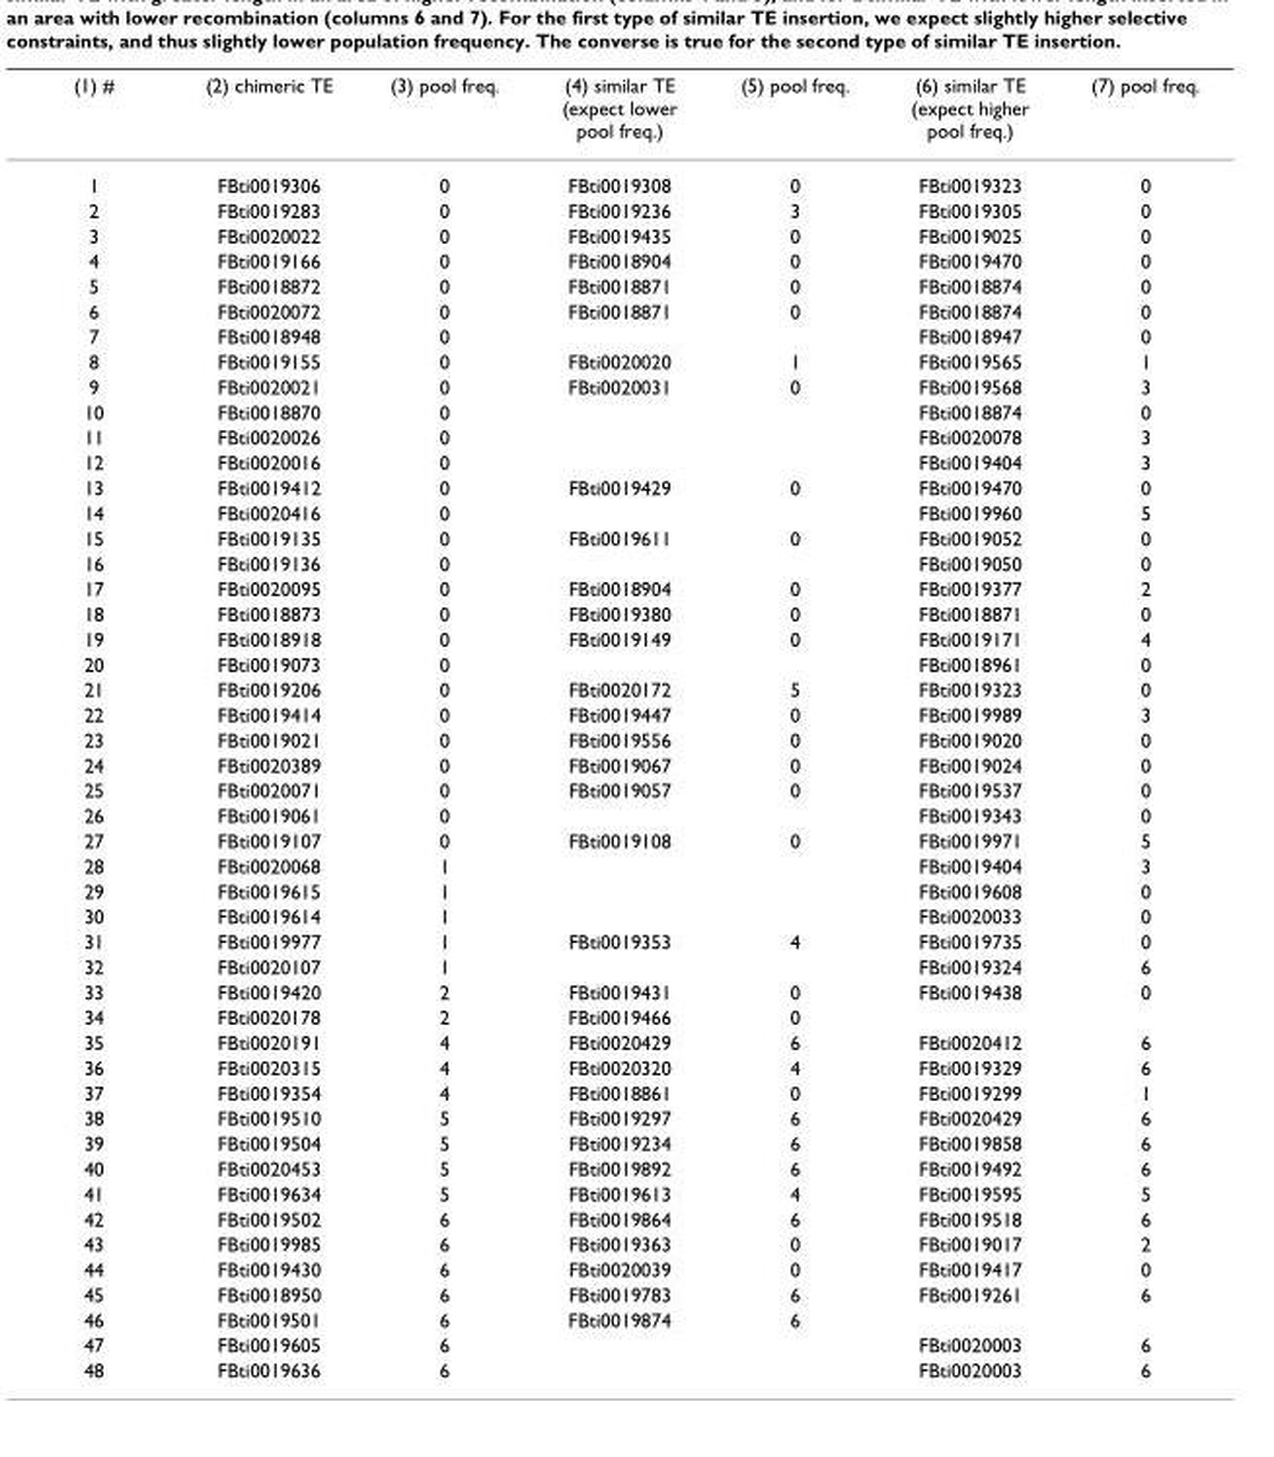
<table><thead><tr><td>(1) #</td><td>(2) chimeric TE</td><td>(3) pool freq.</td><td>(4) similar TE (expect lower pool freq.)</td><td>(5) pool freq.</td><td>(6) similar TE (expect higher pool freq.)</td><td>(7) pool freq.</td></tr></thead><tbody><tr><td>1</td><td>FBti0019306</td><td>0</td><td>FBti0019308</td><td>0</td><td>FBti0019323</td><td>0</td></tr><tr><td>2</td><td>FBti0019283</td><td>0</td><td>FBti0019236</td><td>3</td><td>FBti0019305</td><td>0</td></tr><tr><td>3</td><td>FBti0020022</td><td>0</td><td>FBti0019435</td><td>0</td><td>FBti0019025</td><td>0</td></tr><tr><td>4</td><td>FBti0019166</td><td>0</td><td>FBti0018904</td><td>0</td><td>FBti0019470</td><td>0</td></tr><tr><td>5</td><td>FBti0018872</td><td>0</td><td>FBti0018871</td><td>0</td><td>FBti0018874</td><td>0</td></tr><tr><td>6</td><td>FBti0020072</td><td>0</td><td>FBti0018871</td><td>0</td><td>FBti0018874</td><td>0</td></tr><tr><td>7</td><td>FBti0018948</td><td>0</td><td></td><td></td><td>FBti0018947</td><td>0</td></tr><tr><td>8</td><td>FBti0019155</td><td>0</td><td>FBti0020020</td><td>1</td><td>FBti0019565</td><td>1</td></tr><tr><td>9</td><td>FBti0020021</td><td>0</td><td>FBti0020031</td><td>0</td><td>FBti0019568</td><td>3</td></tr><tr><td>10</td><td>FBti0018870</td><td>0</td><td></td><td></td><td>FBti0018874</td><td>0</td></tr><tr><td>11</td><td>FBti0020026</td><td>0</td><td></td><td></td><td>FBti0020078</td><td>3</td></tr><tr><td>12</td><td>FBti0020016</td><td>0</td><td></td><td></td><td>FBti0019404</td><td>3</td></tr><tr><td>13</td><td>FBti0019412</td><td>0</td><td>FBti0019429</td><td>0</td><td>FBti0019470</td><td>0</td></tr><tr><td>14</td><td>FBti0020416</td><td>0</td><td></td><td></td><td>FBti0019960</td><td>5</td></tr><tr><td>15</td><td>FBti0019135</td><td>0</td><td>FBti0019611</td><td>0</td><td>FBti0019052</td><td>0</td></tr><tr><td>16</td><td>FBti0019136</td><td>0</td><td></td><td></td><td>FBti0019050</td><td>0</td></tr><tr><td>17</td><td>FBti0020095</td><td>0</td><td>FBti0018904</td><td>0</td><td>FBti0019377</td><td>2</td></tr><tr><td>18</td><td>FBti0018873</td><td>0</td><td>FBti0019380</td><td>0</td><td>FBti0018871</td><td>0</td></tr><tr><td>19</td><td>FBti0018918</td><td>0</td><td>FBti0019149</td><td>0</td><td>FBti0019171</td><td>4</td></tr><tr><td>20</td><td>FBti0019073</td><td>0</td><td></td><td></td><td>FBti0018961</td><td>0</td></tr><tr><td>21</td><td>FBti0019206</td><td>0</td><td>FBti0020172</td><td>5</td><td>FBti0019323</td><td>0</td></tr><tr><td>22</td><td>FBti0019414</td><td>0</td><td>FBti0019447</td><td>0</td><td>FBti0019989</td><td>3</td></tr><tr><td>23</td><td>FBti0019021</td><td>0</td><td>FBti0019556</td><td>0</td><td>FBti0019020</td><td>0</td></tr><tr><td>24</td><td>FBti0020389</td><td>0</td><td>FBti0019067</td><td>0</td><td>FBti0019024</td><td>0</td></tr><tr><td>25</td><td>FBti0020071</td><td>0</td><td>FBti0019057</td><td>0</td><td>FBti0019537</td><td>0</td></tr><tr><td>26</td><td>FBti0019061</td><td>0</td><td></td><td></td><td>FBti0019343</td><td>0</td></tr><tr><td>27</td><td>FBti0019107</td><td>0</td><td>FBti0019108</td><td>0</td><td>FBti0019971</td><td>5</td></tr><tr><td>28</td><td>FBti0020068</td><td>1</td><td></td><td></td><td>FBti0019404</td><td>3</td></tr><tr><td>29</td><td>FBti0019615</td><td>1</td><td></td><td></td><td>FBti0019608</td><td>0</td></tr><tr><td>30</td><td>FBti0019614</td><td>1</td><td></td><td></td><td>FBti0020033</td><td>0</td></tr><tr><td>31</td><td>FBti0019977</td><td>1</td><td>FBti0019353</td><td>4</td><td>FBti0019735</td><td>0</td></tr><tr><td>32</td><td>FBti0020107</td><td>1</td><td></td><td></td><td>FBti0019324</td><td>6</td></tr><tr><td>33</td><td>FBti0019420</td><td>2</td><td>FBti0019431</td><td>0</td><td>FBti0019438</td><td>0</td></tr><tr><td>34</td><td>FBti0020178</td><td>2</td><td>FBti0019466</td><td>0</td><td></td><td></td></tr><tr><td>35</td><td>FBti0020191</td><td>4</td><td>FBti0020429</td><td>6</td><td>FBti0020412</td><td>6</td></tr><tr><td>36</td><td>FBti0020315</td><td>4</td><td>FBti0020320</td><td>4</td><td>FBti0019329</td><td>6</td></tr><tr><td>37</td><td>FBti0019354</td><td>4</td><td>FBti0018861</td><td>0</td><td>FBti0019299</td><td>1</td></tr><tr><td>38</td><td>FBti0019510</td><td>5</td><td>FBti0019297</td><td>6</td><td>FBti0020429</td><td>6</td></tr><tr><td>39</td><td>FBti0019504</td><td>5</td><td>FBti0019234</td><td>6</td><td>FBti0019858</td><td>6</td></tr><tr><td>40</td><td>FBti0020453</td><td>5</td><td>FBti0019892</td><td>6</td><td>FBti0019492</td><td>6</td></tr><tr><td>41</td><td>FBti0019634</td><td>5</td><td>FBti0019613</td><td>4</td><td>FBti0019595</td><td>5</td></tr><tr><td>42</td><td>FBti0019502</td><td>6</td><td>FBti0019864</td><td>6</td><td>FBti0019518</td><td>6</td></tr><tr><td>43</td><td>FBti0019985</td><td>6</td><td>FBti0019363</td><td>0</td><td>FBti0019017</td><td>2</td></tr><tr><td>44</td><td>FBti0019430</td><td>6</td><td>FBti0020039</td><td>0</td><td>FBti0019417</td><td>0</td></tr><tr><td>45</td><td>FBti0018950</td><td>6</td><td>FBti0019783</td><td>6</td><td>FBti0019261</td><td>6</td></tr><tr><td>46</td><td>FBti0019501</td><td>6</td><td>FBti0019874</td><td>6</td><td></td><td></td></tr><tr><td>47</td><td>FBti0019605</td><td>6</td><td></td><td></td><td>FBti0020003</td><td>6</td></tr><tr><td>48</td><td>FBti0019636</td><td>6</td><td></td><td></td><td>FBti0020003</td><td>6</td></tr></tbody></table>